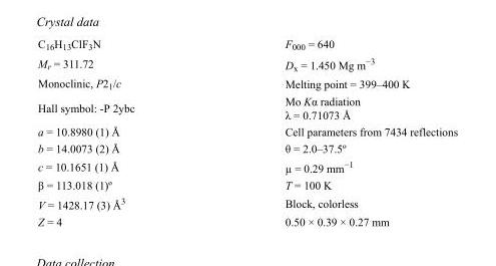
<table><tbody><tr><td>C<sub>16</sub>H<sub>13</sub>ClF<sub>3</sub>N</td><td>F000 = 640</td></tr><tr><td>M<sub>r</sub> = 311.72</td><td>D<sub>x</sub> = 1.450 Mg m<sup>−3</sup></td></tr><tr><td>Monoclinic, P2<sub>1</sub>/c</td><td>Melting point = 399–400 K</td></tr><tr><td>Hall symbol: -P 2ybc</td><td>Mo Kα radiation λ = 0.71073 Å</td></tr><tr><td>a = 10.8980 (1) Å</td><td>Cell parameters from 7434 reflections</td></tr><tr><td>b = 14.0073 (2) Å</td><td>θ = 2.0–37.5º</td></tr><tr><td>c = 10.1651 (1) Å</td><td>µ = 0.29 mm<sup>−1</sup></td></tr><tr><td>β = 113.018 (1)º</td><td>T = 100 K</td></tr><tr><td>V = 1428.17 (3) Å<sup>3</sup></td><td>Block, colorless</td></tr><tr><td>Z = 4</td><td>0.50 × 0.39 × 0.27 mm</td></tr></tbody></table>